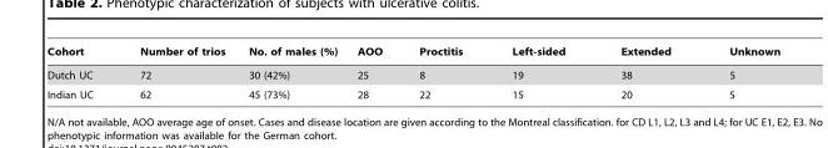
<table><thead><tr><td>Cohort</td><td>Number of trios</td><td>No. of males (%)</td><td>AOO</td><td>Proctitis</td><td>Left-sided</td><td>Extended</td><td>Unknown</td></tr></thead><tbody><tr><td>Dutch UC</td><td>72</td><td>30 (42%)</td><td>25</td><td>8</td><td>19</td><td>38</td><td>5</td></tr><tr><td>Indian UC</td><td>62</td><td>45 (73%)</td><td>28</td><td>22</td><td>15</td><td>20</td><td>5</td></tr></tbody></table>